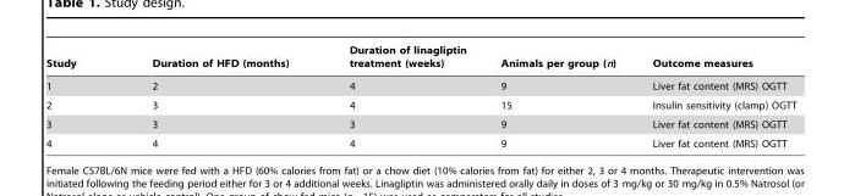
<table><thead><tr><td>Study</td><td>Duration of HFD (months)</td><td>Duration of linagliptin treatment (weeks)</td><td>Animals per group (n)</td><td>Outcome measures</td></tr></thead><tbody><tr><td>1</td><td>2</td><td>4</td><td>9</td><td>Liver fat content (MRS) OGTT</td></tr><tr><td>2</td><td>3</td><td>4</td><td>15</td><td>Insulin sensitivity (clamp) OGTT</td></tr><tr><td>3</td><td>3</td><td>3</td><td>9</td><td>Liver fat content (MRS) OGTT</td></tr><tr><td>4</td><td>4</td><td>4</td><td>9</td><td>Liver fat content (MRS) OGTT</td></tr></tbody></table>